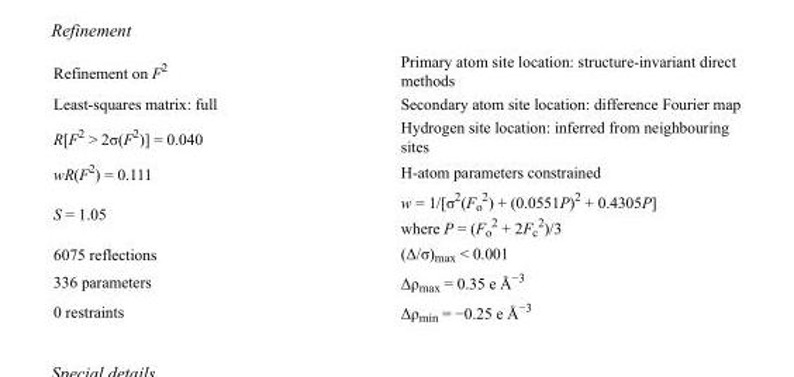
<table><tbody><tr><td>Refinement on F<sup>2</sup></td><td>Primary atom site location: structure-invariant direct methods</td></tr><tr><td>Least-squares matrix: full</td><td>Secondary atom site location: difference Fourier map</td></tr><tr><td>R[F<sup>2</sup> &gt; 2σ(F<sup>2</sup>)] = 0.040</td><td>Hydrogen site location: inferred from neighbouring sites</td></tr><tr><td>wR(F<sup>2</sup>) = 0.111</td><td>H-atom parameters constrained</td></tr><tr><td>S = 1.05</td><td>w = 1/[σ<sup>2</sup>(F<sub>o</sub> <sup>2</sup>) + (0.0551P)<sup>2</sup> + 0.4305P] where P = (F<sub>o</sub> <sup>2</sup> + 2F<sub>c</sub> <sup>2</sup>)/3</td></tr><tr><td>6075 reflections</td><td>(Δ/σ)<sub>max</sub> &lt; 0.001</td></tr><tr><td>336 parameters</td><td>Δρ<sub>max</sub> = 0.35 e Å<sup>−3</sup></td></tr><tr><td>0 restraints</td><td>Δρ<sub>min</sub> = −0.25 e Å<sup>−3</sup></td></tr></tbody></table>